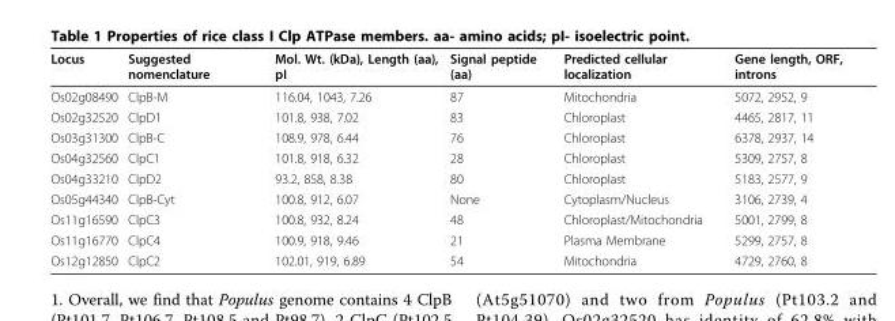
<table><thead><tr><td>Locus</td><td>Suggested nomenclature</td><td>Mol. Wt. (kDa), Length (aa), pI</td><td>Signal peptide (aa)</td><td>Predicted cellular localization</td><td>Gene length, ORF, introns</td></tr></thead><tbody><tr><td>Os02g08490</td><td>ClpB-M</td><td>116.04, 1043, 7.26</td><td>87</td><td>Mitochondria</td><td>5072, 2952, 9</td></tr><tr><td>Os02g32520</td><td>ClpD1</td><td>101.8, 938, 7.02</td><td>83</td><td>Chloroplast</td><td>4465, 2817, 11</td></tr><tr><td>Os03g31300</td><td>ClpB-C</td><td>108.9, 978, 6.44</td><td>76</td><td>Chloroplast</td><td>6378, 2937, 14</td></tr><tr><td>Os04g32560</td><td>ClpC1</td><td>101.8, 918, 6.32</td><td>28</td><td>Chloroplast</td><td>5309, 2757, 8</td></tr><tr><td>Os04g33210</td><td>ClpD2</td><td>93.2, 858, 8.38</td><td>80</td><td>Chloroplast</td><td>5183, 2577, 9</td></tr><tr><td>Os05g44340</td><td>ClpB-Cyt</td><td>100.8, 912, 6.07</td><td>None</td><td>Cytoplasm/Nucleus</td><td>3106, 2739, 4</td></tr><tr><td>Os11g16590</td><td>ClpC3</td><td>100.8, 932, 8.24</td><td>48</td><td>Chloroplast/Mitochondria</td><td>5001, 2799, 8</td></tr><tr><td>Os11g16770</td><td>ClpC4</td><td>100.9, 918, 9.46</td><td>21</td><td>Plasma Membrane</td><td>5299, 2757, 8</td></tr><tr><td>Os12g12850</td><td>ClpC2</td><td>102.01, 919, 6.89</td><td>54</td><td>Mitochondria</td><td>4729, 2760, 8</td></tr></tbody></table>